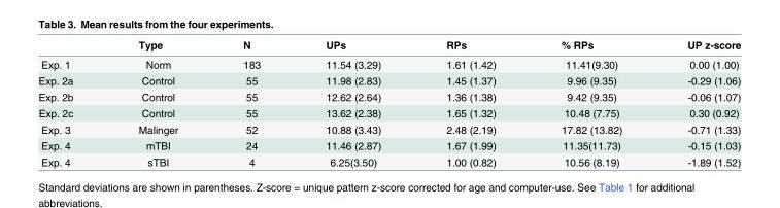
<table><thead><tr><td></td><td>Type</td><td>N</td><td>UPs</td><td>RPs</td><td>% RPs</td><td>UP z-score</td></tr></thead><tbody><tr><td>Exp. 1</td><td>Norm</td><td>183</td><td>11.54 (3.29)</td><td>1.61 (1.42)</td><td>11.41(9.30)</td><td>0.00 (1.00)</td></tr><tr><td>Exp. 2a</td><td>Control</td><td>55</td><td>11.98 (2.83)</td><td>1.45 (1.37)</td><td>9.96 (9.35)</td><td>-0.29 (1.06)</td></tr><tr><td>Exp. 2b</td><td>Control</td><td>55</td><td>12.62 (2.64)</td><td>1.36 (1.38)</td><td>9.42 (9.35)</td><td>-0.06 (1.07)</td></tr><tr><td>Exp. 2c</td><td>Control</td><td>55</td><td>13.62 (2.38)</td><td>1.65 (1.32)</td><td>10.48 (7.75)</td><td>0.30 (0.92)</td></tr><tr><td>Exp. 3</td><td>Malinger</td><td>52</td><td>10.88 (3.43)</td><td>2.48 (2.19)</td><td>17.82 (13.82)</td><td>-0.71 (1.33)</td></tr><tr><td>Exp. 4</td><td>mTBI</td><td>24</td><td>11.46 (2.87)</td><td>1.67 (1.99)</td><td>11.35(11.73)</td><td>-0.15 (1.03)</td></tr><tr><td>Exp. 4</td><td>sTBI</td><td>4</td><td>6.25(3.50)</td><td>1.00 (0.82)</td><td>10.56 (8.19)</td><td>-1.89 (1.52)</td></tr></tbody></table>